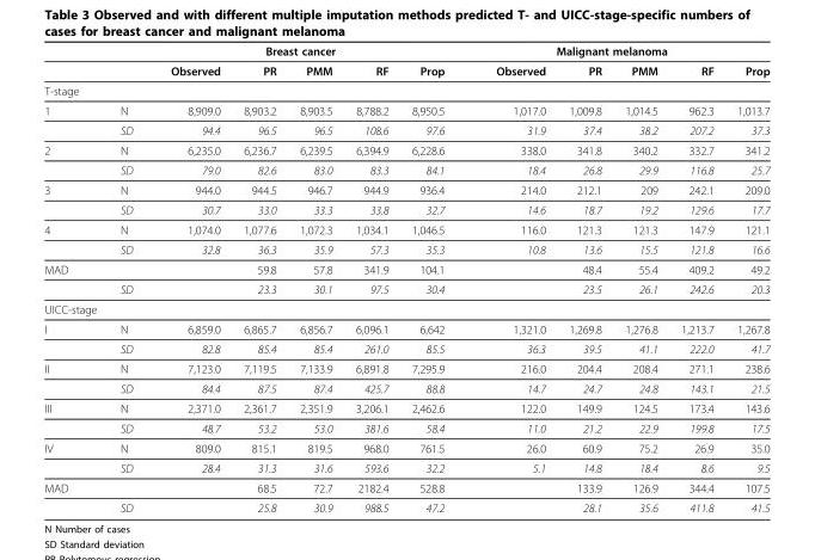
<table><thead><tr><td rowspan="2"></td><td rowspan="2"></td><td colspan="5">Breast cancer</td><td colspan="5">Malignant melanoma</td></tr><tr><td>Observed</td><td>PR</td><td>PMM</td><td>RF</td><td>Prop</td><td>Observed</td><td>PR</td><td>PMM</td><td>RF</td><td>Prop</td></tr></thead><tbody><tr><td colspan="12">T-stage</td></tr><tr><td rowspan="2">1</td><td>N</td><td>8,909.0</td><td>8,903.2</td><td>8,903.5</td><td>8,788.2</td><td>8,950.5</td><td>1,017.0</td><td>1,009.8</td><td>1,014.5</td><td>962.3</td><td>1,013.7</td></tr><tr><td>SD</td><td>94.4</td><td>96.5</td><td>96.5</td><td>108.6</td><td>97.6</td><td>31.9</td><td>37.4</td><td>38.2</td><td>207.2</td><td>37.3</td></tr><tr><td rowspan="2">2</td><td>N</td><td>6,235.0</td><td>6,236.7</td><td>6,239.5</td><td>6,394.9</td><td>6,228.6</td><td>338.0</td><td>341.8</td><td>340.2</td><td>332.7</td><td>341.2</td></tr><tr><td>SD</td><td>79.0</td><td>82.6</td><td>83.0</td><td>83.3</td><td>84.1</td><td>18.4</td><td>26.8</td><td>29.9</td><td>116.8</td><td>25.7</td></tr><tr><td rowspan="2">3</td><td>N</td><td>944.0</td><td>944.5</td><td>946.7</td><td>944.9</td><td>936.4</td><td>214.0</td><td>212.1</td><td>209</td><td>242.1</td><td>209.0</td></tr><tr><td>SD</td><td>30.7</td><td>33.0</td><td>33.3</td><td>33.8</td><td>32.7</td><td>14.6</td><td>18.7</td><td>19.2</td><td>129.6</td><td>17.7</td></tr><tr><td rowspan="2">4</td><td>N</td><td>1,074.0</td><td>1,077.6</td><td>1,072.3</td><td>1,034.1</td><td>1,046.5</td><td>116.0</td><td>121.3</td><td>121.3</td><td>147.9</td><td>121.1</td></tr><tr><td>SD</td><td>32.8</td><td>36.3</td><td>35.9</td><td>57.3</td><td>35.3</td><td>10.8</td><td>13.6</td><td>15.5</td><td>121.8</td><td>16.6</td></tr><tr><td rowspan="2">MAD</td><td></td><td></td><td>59.8</td><td>57.8</td><td>341.9</td><td>104.1</td><td></td><td>48.4</td><td>55.4</td><td>409.2</td><td>49.2</td></tr><tr><td>SD</td><td></td><td>23.3</td><td>30.1</td><td>97.5</td><td>30.4</td><td></td><td>23.5</td><td>26.1</td><td>242.6</td><td>20.3</td></tr><tr><td colspan="12">UICC-stage</td></tr><tr><td rowspan="2">I</td><td>N</td><td>6,859.0</td><td>6,865.7</td><td>6,856.7</td><td>6,096.1</td><td>6,642</td><td>1,321.0</td><td>1,269.8</td><td>1,276.8</td><td>1,213.7</td><td>1,267.8</td></tr><tr><td>SD</td><td>82.8</td><td>85.4</td><td>85.4</td><td>261.0</td><td>85.5</td><td>36.3</td><td>39.5</td><td>41.1</td><td>222.0</td><td>41.7</td></tr><tr><td rowspan="2">II</td><td>N</td><td>7,123.0</td><td>7,119.5</td><td>7,133.9</td><td>6,891.8</td><td>7,295.9</td><td>216.0</td><td>204.4</td><td>208.4</td><td>271.1</td><td>238.6</td></tr><tr><td>SD</td><td>84.4</td><td>87.5</td><td>87.4</td><td>425.7</td><td>88.8</td><td>14.7</td><td>24.7</td><td>24.8</td><td>143.1</td><td>21.5</td></tr><tr><td rowspan="2">III</td><td>N</td><td>2,371.0</td><td>2,361.7</td><td>2,351.9</td><td>3,206.1</td><td>2,462.6</td><td>122.0</td><td>149.9</td><td>124.5</td><td>173.4</td><td>143.6</td></tr><tr><td>SD</td><td>48.7</td><td>53.2</td><td>53.0</td><td>381.6</td><td>58.4</td><td>11.0</td><td>21.2</td><td>22.9</td><td>199.8</td><td>17.5</td></tr><tr><td rowspan="2">IV</td><td>N</td><td>809.0</td><td>815.1</td><td>819.5</td><td>968.0</td><td>761.5</td><td>26.0</td><td>60.9</td><td>75.2</td><td>26.9</td><td>35.0</td></tr><tr><td>SD</td><td>28.4</td><td>31.3</td><td>31.6</td><td>593.6</td><td>32.2</td><td>5.1</td><td>14.8</td><td>18.4</td><td>8.6</td><td>9.5</td></tr><tr><td rowspan="2">MAD</td><td></td><td></td><td>68.5</td><td>72.7</td><td>2182.4</td><td>528.8</td><td></td><td>133.9</td><td>126.9</td><td>344.4</td><td>107.5</td></tr><tr><td>SD</td><td></td><td>25.8</td><td>30.9</td><td>988.5</td><td>47.2</td><td></td><td>28.1</td><td>35.6</td><td>411.8</td><td>41.5</td></tr></tbody></table>